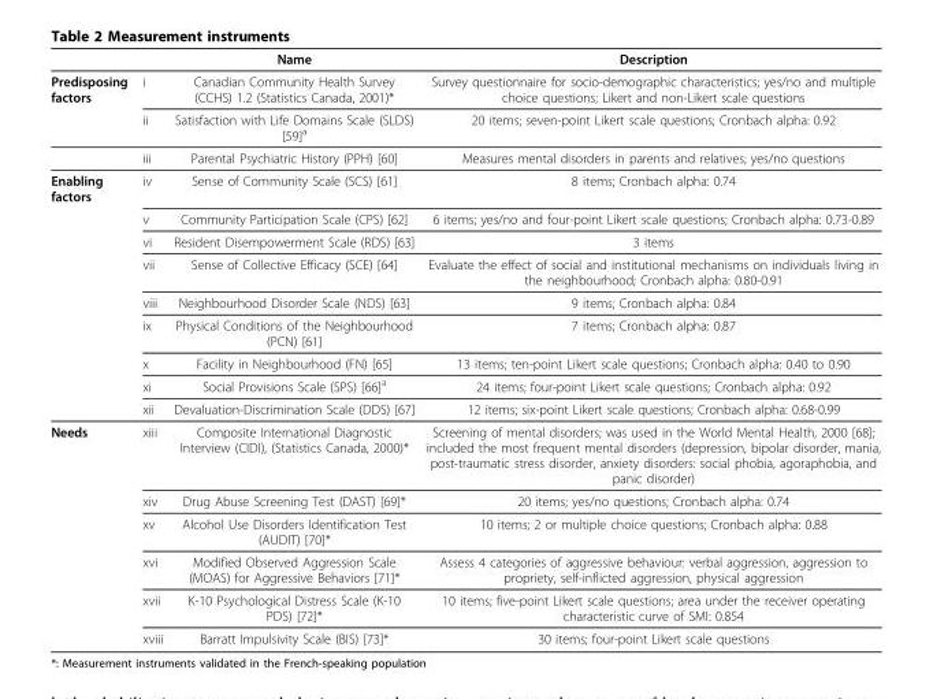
<table><thead><tr><td></td><td></td><td>Name</td><td>Description</td></tr></thead><tbody><tr><td rowspan="3">Predisposing factors</td><td>i</td><td>Canadian Community Health Survey (CCHS) 1.2 (Statistics Canada, 2001)*</td><td>Survey questionnaire for socio-demographic characteristics; yes/no and multiple choice questions; Likert and non-Likert scale questions</td></tr><tr><td>ii</td><td>Satisfaction with Life Domains Scale (SLDS) [59]<sup>a</sup></td><td>20 items; seven-point Likert scale questions; Cronbach alpha: 0.92</td></tr><tr><td>iii</td><td>Parental Psychiatric History (PPH) [60]</td><td>Measures mental disorders in parents and relatives; yes/no questions</td></tr><tr><td rowspan="9">Enabling factors</td><td>iv</td><td>Sense of Community Scale (SCS) [61]</td><td>8 items; Cronbach alpha: 0.74</td></tr><tr><td>v</td><td>Community Participation Scale (CPS) [62]</td><td>6 items; yes/no and four-point Likert scale questions; Cronbach alpha: 0.73-0.89</td></tr><tr><td>vi</td><td>Resident Disempowerment Scale (RDS) [63]</td><td>3 items</td></tr><tr><td>vii</td><td>Sense of Collective Efficacy (SCE) [64]</td><td>Evaluate the effect of social and institutional mechanisms on individuals living in the neighbourhood; Cronbach alpha: 0.80-0.91</td></tr><tr><td>viii</td><td>Neighbourhood Disorder Scale (NDS) [63]</td><td>9 items; Cronbach alpha: 0.84</td></tr><tr><td>ix</td><td>Physical Conditions of the Neighbourhood (PCN) [61]</td><td>7 items; Cronbach alpha: 0.87</td></tr><tr><td>x</td><td>Facility in Neighbourhood (FN) [65]</td><td>13 items; ten-point Likert scale questions; Cronbach alpha: 0.40 to 0.90</td></tr><tr><td>xi</td><td>Social Provisions Scale (SPS) [66]<sup>a</sup></td><td>24 items; four-point Likert scale questions; Cronbach alpha: 0.92</td></tr><tr><td>xii</td><td>Devaluation-Discrimination Scale (DDS) [67]</td><td>12 items; six-point Likert scale questions; Cronbach alpha: 0.68-0.99</td></tr><tr><td rowspan="6">Needs</td><td>xiii</td><td>Composite International Diagnostic Interview (CIDI), (Statistics Canada, 2000)*</td><td>Screening of mental disorders; was used in the World Mental Health, 2000 [68]; included the most frequent mental disorders (depression, bipolar disorder, mania, post-traumatic stress disorder, anxiety disorders: social phobia, agoraphobia, and panic disorder)</td></tr><tr><td>xiv</td><td>Drug Abuse Screening Test (DAST) [69]*</td><td>20 items; yes/no questions; Cronbach alpha: 0.74</td></tr><tr><td>xv</td><td>Alcohol Use Disorders Identification Test (AUDIT) [70]*</td><td>10 items; 2 or multiple choice questions; Cronbach alpha: 0.88</td></tr><tr><td>xvi</td><td>Modified Observed Aggression Scale (MOAS) for Aggressive Behaviors [71]*</td><td>Assess 4 categories of aggressive behaviour: verbal aggression, aggression to propriety, self-inflicted aggression, physical aggression</td></tr><tr><td>xvii</td><td>K-10 Psychological Distress Scale (K-10 PDS) [72]*</td><td>10 items; five-point Likert scale questions; area under the receiver operating characteristic curve of SMI: 0.854</td></tr><tr><td>xviii</td><td>Barratt Impulsivity Scale (BIS) [73]*</td><td>30 items; four-point Likert scale questions</td></tr></tbody></table>